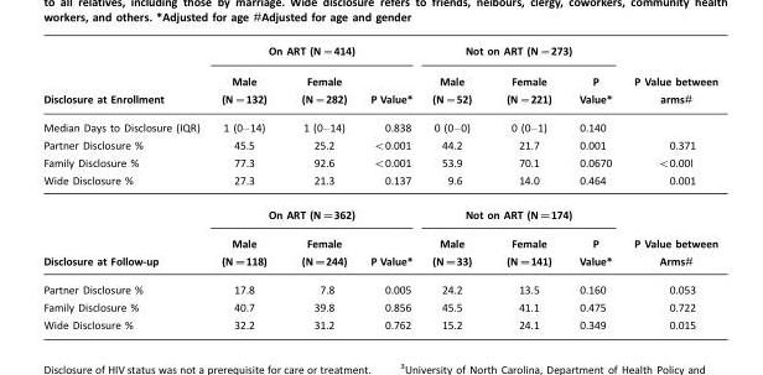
<table><thead><tr><td rowspan="2">Disclosure at Enrollment</td><td colspan="3">On ART (N=414)</td><td colspan="3">Not on ART (N=273)</td><td rowspan="2">P Value between arms#</td></tr><tr><td>Male (N=132)</td><td>Female (N=282)</td><td>P Value*</td><td>Male (N=52)</td><td>Female (N=221)</td><td>P Value*</td></tr></thead><tbody><tr><td>Median Days to Disclosure (IQR)</td><td>1 (0–14)</td><td>1 (0–14)</td><td>0.838</td><td>0 (0–0)</td><td>0 (0–1)</td><td>0.140</td><td></td></tr><tr><td>Partner Disclosure %</td><td>45.5</td><td>25.2</td><td>&lt;0.001</td><td>44.2</td><td>21.7</td><td>0.001</td><td>0.371</td></tr><tr><td>Family Disclosure %</td><td>77.3</td><td>92.6</td><td>&lt;0.001</td><td>53.9</td><td>70.1</td><td>0.0670</td><td>&lt;0.00l</td></tr><tr><td rowspan="2">Wide Disclosure %</td><td>27.3</td><td>21.3</td><td>0.137</td><td>9.6</td><td>14.0</td><td>0.464</td><td>0.001</td></tr><tr><td colspan="3">On ART (N=362)</td><td colspan="3">Not on ART (N=174)</td><td></td></tr><tr><td>Disclosure at Follow-up</td><td>Male (N=118)</td><td>Female (N=244)</td><td>P Value*</td><td>Male (N=33)</td><td>Female (N=141)</td><td>P Value*</td><td>P Value between Arms#</td></tr><tr><td>Partner Disclosure %</td><td>17.8</td><td>7.8</td><td>0.005</td><td>24.2</td><td>13.5</td><td>0.160</td><td>0.053</td></tr><tr><td>Family Disclosure %</td><td>40.7</td><td>39.8</td><td>0.856</td><td>45.5</td><td>41.1</td><td>0.475</td><td>0.722</td></tr><tr><td>Wide Disclosure %</td><td>32.2</td><td>31.2</td><td>0.762</td><td>15.2</td><td>24.1</td><td>0.349</td><td>0.015</td></tr></tbody></table>